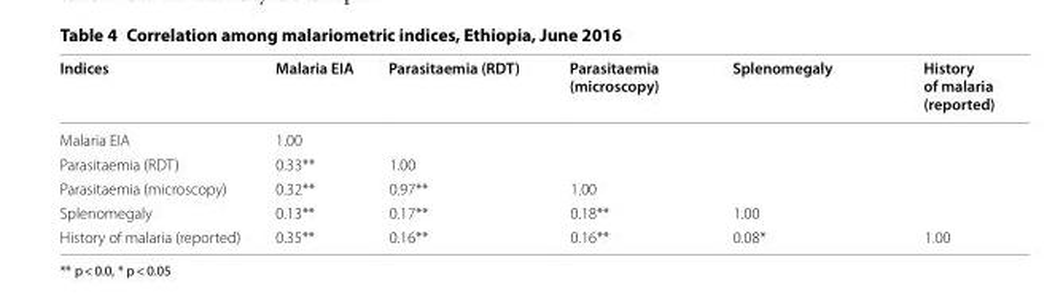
<table><thead><tr><td>Indices</td><td>Malaria EIA</td><td>Parasitaemia (RDT)</td><td>Parasitaemia (microscopy)</td><td>Splenomegaly</td><td>History of malaria (reported)</td></tr></thead><tbody><tr><td>Malaria EIA</td><td>1.00</td><td></td><td></td><td></td><td></td></tr><tr><td>Parasitaemia (RDT)</td><td>0.33**</td><td>1.00</td><td></td><td></td><td></td></tr><tr><td>Parasitaemia (microscopy)</td><td>0.32**</td><td>0.97**</td><td>1.00</td><td></td><td></td></tr><tr><td>Splenomegaly</td><td>0.13**</td><td>0.17**</td><td>0.18**</td><td>1.00</td><td></td></tr><tr><td>History of malaria (reported)</td><td>0.35**</td><td>0.16**</td><td>0.16**</td><td>0.08*</td><td>1.00</td></tr></tbody></table>